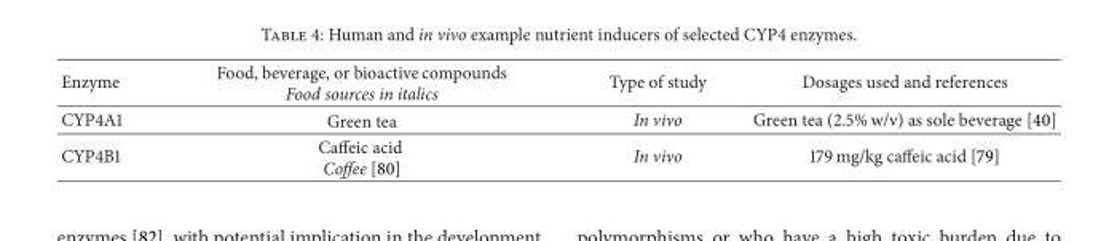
<table><thead><tr><td>Enzyme</td><td>Food, beverage, or bioactive compounds Food sources in italics</td><td>Type of study</td><td>Dosages used and references</td></tr></thead><tbody><tr><td>CYP4A1</td><td>Green tea</td><td>In vivo</td><td>Green tea (2.5% w/v) as sole beverage [40]</td></tr><tr><td>CYP4B1</td><td>Caffeic acid Coffee [80]</td><td>In vivo</td><td>179 mg/kg caffeic acid [79]</td></tr></tbody></table>